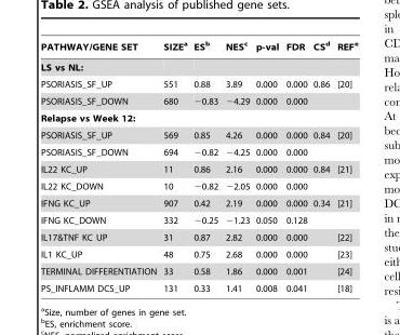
<table><thead><tr><td>PATHWAY/GENE SET</td><td>SIZE<sup>a</sup></td><td>ES<sup>b</sup></td><td>NES<sup>c</sup></td><td>p-val</td><td>FDR</td><td>CS<sup>d</sup></td><td>REF<sup>e</sup></td></tr></thead><tbody><tr><td colspan="8">LS vs NL:</td></tr><tr><td>PSORIASIS_SF_UP</td><td>551</td><td>0.88</td><td>3.89</td><td>0.000</td><td>0.000</td><td>0.86</td><td>[20]</td></tr><tr><td>PSORIASIS_SF_DOWN</td><td>680</td><td>−0.83</td><td>−4.29</td><td>0.000</td><td>0.000</td><td></td><td></td></tr><tr><td colspan="8">Relapse vs Week 12:</td></tr><tr><td>PSORIASIS_SF_UP</td><td>569</td><td>0.85</td><td>4.26</td><td>0.000</td><td>0.000</td><td>0.84</td><td>[20]</td></tr><tr><td>PSORIASIS_SF_DOWN</td><td>694</td><td>−0.82</td><td>−4.25</td><td>0.000</td><td>0.000</td><td></td><td></td></tr><tr><td>IL22 KC_UP</td><td>11</td><td>0.86</td><td>2.16</td><td>0.000</td><td>0.000</td><td>0.84</td><td>[21]</td></tr><tr><td>IL22 KC_DOWN</td><td>10</td><td>−0.82</td><td>−2.05</td><td>0.000</td><td>0.000</td><td></td><td></td></tr><tr><td>IFNG KC_UP</td><td>907</td><td>0.42</td><td>2.19</td><td>0.000</td><td>0.000</td><td>0.34</td><td>[21]</td></tr><tr><td>IFNG KC_DOWN</td><td>332</td><td>−0.25</td><td>−1.23</td><td>0.050</td><td>0.128</td><td></td><td></td></tr><tr><td>IL17&amp;TNF KC UP</td><td>31</td><td>0.87</td><td>2.82</td><td>0.000</td><td>0.000</td><td></td><td>[22]</td></tr><tr><td>IL1 KC_UP</td><td>48</td><td>0.75</td><td>2.68</td><td>0.000</td><td>0.000</td><td></td><td>[23]</td></tr><tr><td>TERMINAL DIFFERENTIATION</td><td>33</td><td>0.58</td><td>1.86</td><td>0.000</td><td>0.001</td><td></td><td>[24]</td></tr><tr><td>PS_INFLAMM DCS_UP</td><td>131</td><td>0.33</td><td>1.41</td><td>0.008</td><td>0.041</td><td></td><td>[18]</td></tr></tbody></table>